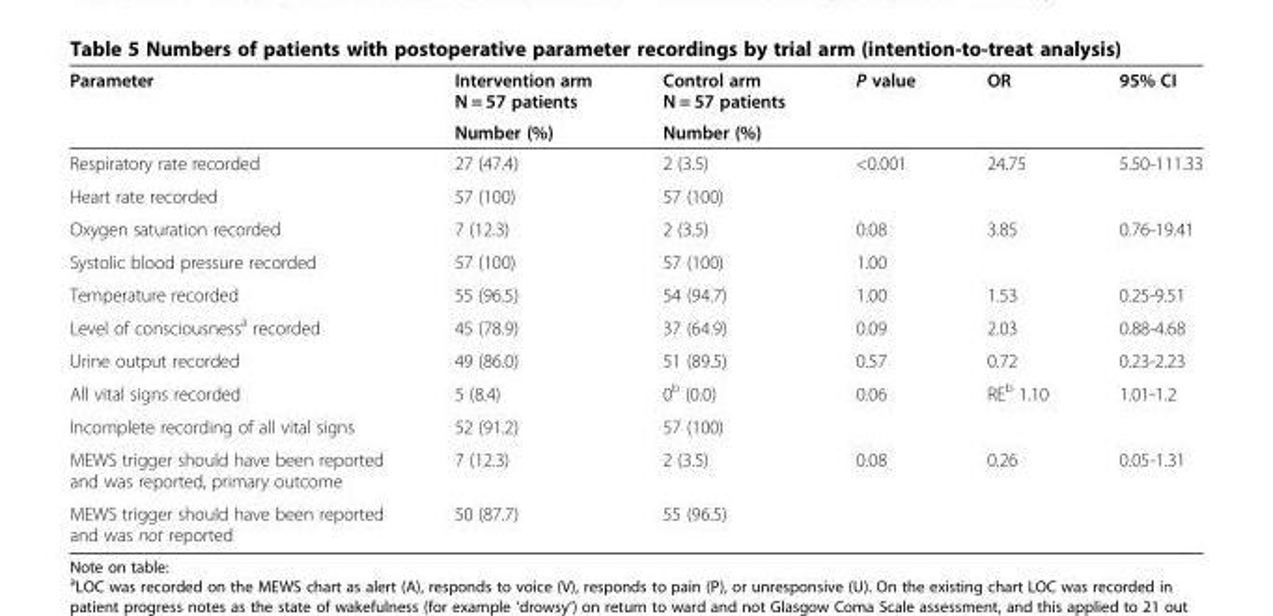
<table><thead><tr><td rowspan="2">Parameter</td><td rowspan="2">Intervention arm N = 57 patients Number (%)</td><td rowspan="2">Control arm N = 57 patients Number (%)</td><td rowspan="2">P value</td><td rowspan="2">OR</td><td rowspan="2">95% CI</td></tr><tr></tr></thead><tbody><tr><td>Respiratory rate recorded</td><td>27 (47.4)</td><td>2 (3.5)</td><td>&lt;0.001</td><td>24.75</td><td>5.50-111.33</td></tr><tr><td>Heart rate recorded</td><td>57 (100)</td><td>57 (100)</td><td colspan="3"></td></tr><tr><td>Oxygen saturation recorded</td><td>7 (12.3)</td><td>2 (3.5)</td><td>0.08</td><td>3.85</td><td>0.76-19.41</td></tr><tr><td>Systolic blood pressure recorded</td><td>57 (100)</td><td>57 (100)</td><td colspan="2">1.00</td><td></td></tr><tr><td>Temperature recorded</td><td>55 (96.5)</td><td>54 (94.7)</td><td>1.00</td><td>1.53</td><td>0.25-9.51</td></tr><tr><td>Level of consciousness<sup>a</sup> recorded</td><td>45 (78.9)</td><td>37 (64.9)</td><td>0.09</td><td>2.03</td><td>0.88-4.68</td></tr><tr><td>Urine output recorded</td><td>49 (86.0)</td><td>51 (89.5)</td><td>0.57</td><td>0.72</td><td>0.23-2.23</td></tr><tr><td>All vital signs recorded</td><td>5 (8.4)</td><td>0<sup>b</sup> (0.0)</td><td rowspan="2">0.06</td><td rowspan="2">RE<sup>b</sup> 1.10</td><td rowspan="2">1.01-1.2</td></tr><tr><td>Incomplete recording of all vital signs</td><td>52 (91.2)</td><td>57 (100)</td></tr><tr><td>MEWS trigger should have been reported and was reported, primary outcome</td><td>7 (12.3)</td><td>2 (3.5)</td><td>0.08</td><td>0.26</td><td>0.05-1.31</td></tr><tr><td>MEWS trigger should have been reported and was not reported</td><td>50 (87.7)</td><td>55 (96.5)</td><td></td><td></td><td></td></tr></tbody></table>